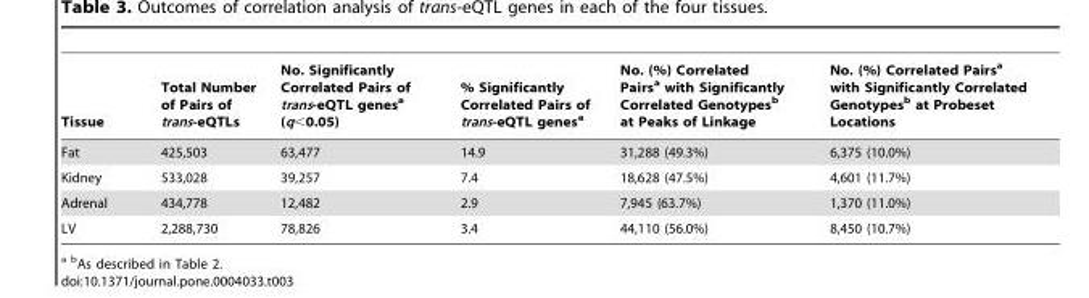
<table><thead><tr><td>Tissue</td><td>Total Number of Pairs of trans-eQTLs</td><td>No. Significantly Correlated Pairs of trans-eQTL genes<sup>a</sup> (q&lt;0.05)</td><td>% Significantly Correlated Pairs of trans-eQTL genes<sup>a</sup></td><td>No. (%) Correlated Pairs<sup>a</sup> with Significantly Correlated Genotypes<sup>b</sup> at Peaks of Linkage</td><td>No. (%) Correlated Pairs<sup>a</sup> with Significantly Correlated Genotypes<sup>b</sup> at Probeset Locations</td></tr></thead><tbody><tr><td>Fat</td><td>425,503</td><td>63,477</td><td>14.9</td><td>31,288 (49.3%)</td><td>6,375 (10.0%)</td></tr><tr><td>Kidney</td><td>533,028</td><td>39,257</td><td>7.4</td><td>18,628 (47.5%)</td><td>4,601 (11.7%)</td></tr><tr><td>Adrenal</td><td>434,778</td><td>12,482</td><td>2.9</td><td>7,945 (63.7%)</td><td>1,370 (11.0%)</td></tr><tr><td>LV</td><td>2,288,730</td><td>78,826</td><td>3.4</td><td>44,110 (56.0%)</td><td>8,450 (10.7%)</td></tr></tbody></table>